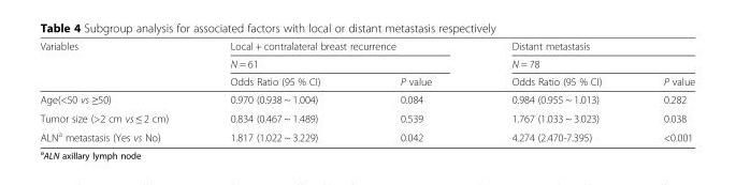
<table><thead><tr><td rowspan="3">Variables</td><td rowspan="2" colspan="2">Local + contralateral breast recurrence N = 61</td><td rowspan="2" colspan="2">Distant metastasis N = 78</td></tr><tr></tr><tr><td>Odds Ratio (95 % CI)</td><td>P value</td><td>Odds Ratio (95 % CI)</td><td>P value</td></tr></thead><tbody><tr><td>Age(&lt;50 vs ≥50)</td><td>0.970 (0.938 ~ 1.004)</td><td>0.084</td><td>0.984 (0.955 ~ 1.013)</td><td>0.282</td></tr><tr><td>Tumor size (&gt;2 cm vs ≤ 2 cm)</td><td>0.834 (0.467 ~ 1.489)</td><td>0.539</td><td>1.767 (1.033 ~ 3.023)</td><td>0.038</td></tr><tr><td>ALN<sup>a</sup> metastasis (Yes vs No)</td><td>1.817 (1.022 ~ 3.229)</td><td>0.042</td><td>4.274 (2.470-7.395)</td><td>&lt;0.001</td></tr></tbody></table>